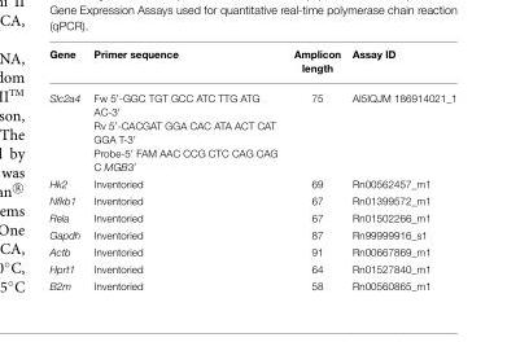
<table><thead><tr><td>Gene</td><td>Primer sequence</td><td>Amplicon length</td><td>Assay ID</td></tr></thead><tbody><tr><td>Slc2a4</td><td>Fw 5′-GGC TGT GCC ATC TTG ATG AC-3′ Rv 5′-CACGAT GGA CAC ATA ACT CAT GGA T-3′ Probe-5′ FAM AAC CCG CTC CAG CAG C MGB3′</td><td>75</td><td>AI5IQJM 186914021_1</td></tr><tr><td>Hk2</td><td>Inventoried</td><td>69</td><td>Rn00562457_m1</td></tr><tr><td>Nfkb1</td><td>Inventoried</td><td>67</td><td>Rn01399572_m1</td></tr><tr><td>Rela</td><td>Inventoried</td><td>67</td><td>Rn01502266_m1</td></tr><tr><td>Gapdh</td><td>Inventoried</td><td>87</td><td>Rn99999916_s1</td></tr><tr><td>Actb</td><td>Inventoried</td><td>91</td><td>Rn00667869_m1</td></tr><tr><td>Hprt1</td><td>Inventoried</td><td>64</td><td>Rn01527840_m1</td></tr><tr><td>B2m</td><td>Inventoried</td><td>58</td><td>Rn00560865_m1</td></tr></tbody></table>